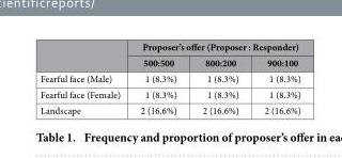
<table><thead><tr><td rowspan="2"></td><td colspan="3">Proposer’s offer (Proposer : Responder)</td></tr><tr><td>500:500</td><td>800:200</td><td>900:100</td></tr></thead><tbody><tr><td>Fearful face (Male)</td><td>1 (8.3%)</td><td>1 (8.3%)</td><td>1 (8.3%)</td></tr><tr><td>Fearful face (Female)</td><td>1 (8.3%)</td><td>1 (8.3%)</td><td>1 (8.3%)</td></tr><tr><td>Landscape</td><td>2 (16.6%)</td><td>2 (16.6%)</td><td>2 (16.6%)</td></tr></tbody></table>